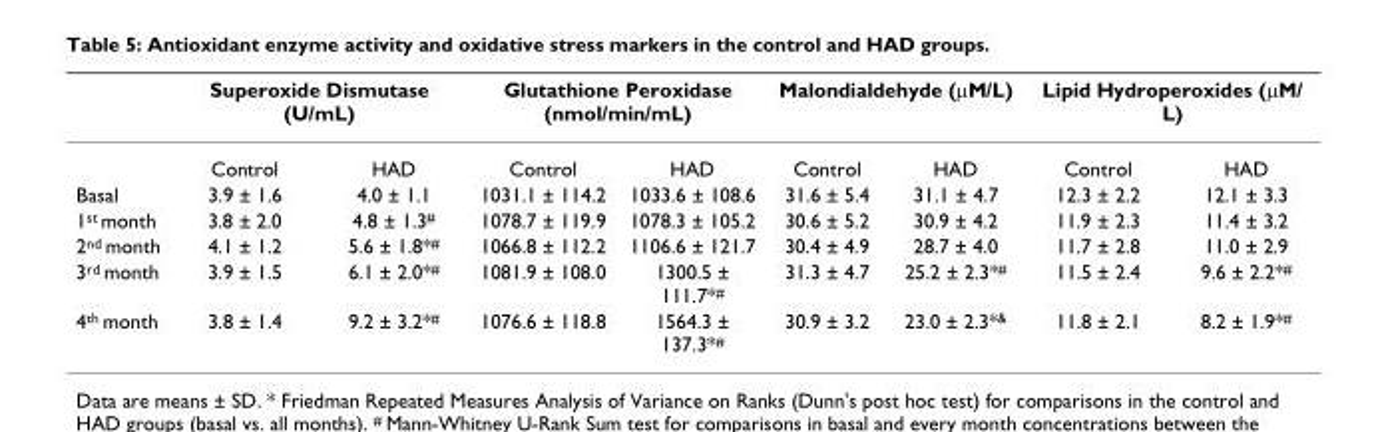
<table><thead><tr><td rowspan="2"></td><td colspan="2">Superoxide Dismutase (U/mL)</td><td colspan="2">Glutathione Peroxidase (nmol/min/mL)</td><td colspan="2">Malondialdehyde (μM/L)</td><td colspan="2">Lipid Hydroperoxides (μM/ L)</td></tr><tr><td>Control</td><td>HAD</td><td>Control</td><td>HAD</td><td>Control</td><td>HAD</td><td>Control</td><td>HAD</td></tr></thead><tbody><tr><td>Basal</td><td>3.9 ± 1.6</td><td>4.0 ± 1.1</td><td>1031.1 ± 114.2</td><td>1033.6 ± 108.6</td><td>31.6 ± 5.4</td><td>31.1 ± 4.7</td><td>12.3 ± 2.2</td><td>12.1 ± 3.3</td></tr><tr><td>1<sup>st</sup> month</td><td>3.8 ± 2.0</td><td>4.8 ± 1.3<sup>#</sup></td><td>1078.7 ± 119.9</td><td>1078.3 ± 105.2</td><td>30.6 ± 5.2</td><td>30.9 ± 4.2</td><td>11.9 ± 2.3</td><td>11.4 ± 3.2</td></tr><tr><td>2<sup>nd</sup> month</td><td>4.1 ± 1.2</td><td>5.6 ± 1.8*<sup>#</sup></td><td>1066.8 ± 112.2</td><td>1106.6 ± 121.7</td><td>30.4 ± 4.9</td><td>28.7 ± 4.0</td><td>11.7 ± 2.8</td><td>11.0 ± 2.9</td></tr><tr><td>3<sup>rd</sup> month</td><td>3.9 ± 1.5</td><td>6.1 ± 2.0*<sup>#</sup></td><td>1081.9 ± 108.0</td><td>1300.5 ± 111.7*<sup>#</sup></td><td>31.3 ± 4.7</td><td>25.2 ± 2.3*<sup>#</sup></td><td>11.5 ± 2.4</td><td>9.6 ± 2.2*<sup>#</sup></td></tr><tr><td>4<sup>th</sup> month</td><td>3.8 ± 1.4</td><td>9.2 ± 3.2*<sup>#</sup></td><td>1076.6 ± 118.8</td><td>1564.3 ± 137.3*<sup>#</sup></td><td>30.9 ± 3.2</td><td>23.0 ± 2.3*<sup>&amp;</sup></td><td>11.8 ± 2.1</td><td>8.2 ± 1.9*<sup>#</sup></td></tr></tbody></table>